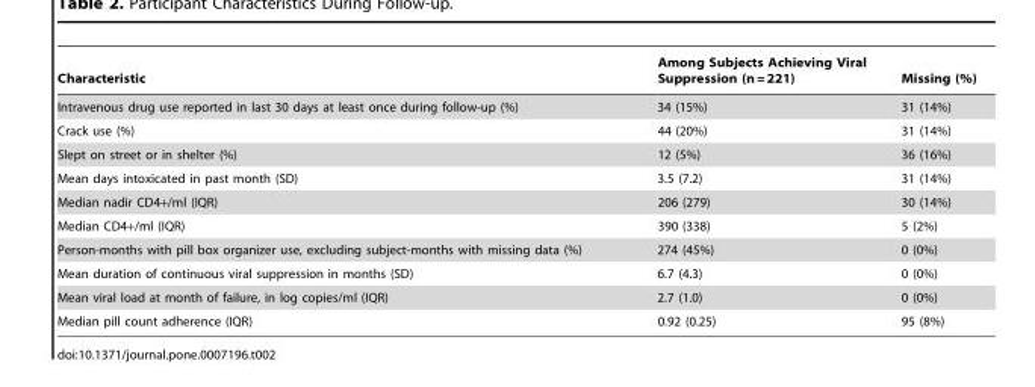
<table><thead><tr><td>Characteristic</td><td>Among Subjects Achieving Viral Suppression (n = 221)</td><td>Missing (%)</td></tr></thead><tbody><tr><td>Intravenous drug use reported in last 30 days at least once during follow-up (%)</td><td>34 (15%)</td><td>31 (14%)</td></tr><tr><td>Crack use (%)</td><td>44 (20%)</td><td>31 (14%)</td></tr><tr><td>Slept on street or in shelter (%)</td><td>12 (5%)</td><td>36 (16%)</td></tr><tr><td>Mean days intoxicated in past month (SD)</td><td>3.5 (7.2)</td><td>31 (14%)</td></tr><tr><td>Median nadir CD4+/ml (IQR)</td><td>206 (279)</td><td>30 (14%)</td></tr><tr><td>Median CD4+/ml (IQR)</td><td>390 (338)</td><td>5 (2%)</td></tr><tr><td>Person-months with pill box organizer use, excluding subject-months with missing data (%)</td><td>274 (45%)</td><td>0 (0%)</td></tr><tr><td>Mean duration of continuous viral suppression in months (SD)</td><td>6.7 (4.3)</td><td>0 (0%)</td></tr><tr><td>Mean viral load at month of failure, in log copies/ml (IQR)</td><td>2.7 (1.0)</td><td>0 (0%)</td></tr><tr><td>Median pill count adherence (IQR)</td><td>0.92 (0.25)</td><td>95 (8%)</td></tr></tbody></table>